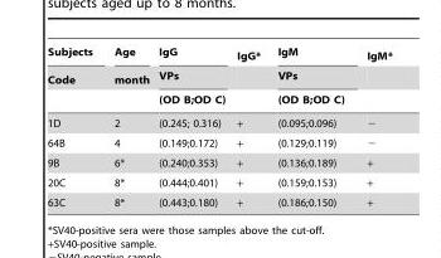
<table><thead><tr><td rowspan="3">Subjects Code</td><td rowspan="3">Age month</td><td rowspan="3">IgG VPs (OD B;OD C)</td><td rowspan="3">IgG*</td><td rowspan="3">IgM VPs (OD B;OD C)</td><td rowspan="3">IgM*</td></tr><tr></tr><tr></tr></thead><tbody><tr><td>1D</td><td>2</td><td>(0.245; 0.316)</td><td>+</td><td>(0.095;0.096)</td><td>−</td></tr><tr><td>64B</td><td>4</td><td>(0.149;0.172)</td><td>+</td><td>(0.129;0.119)</td><td>−</td></tr><tr><td>9B</td><td>6*</td><td>(0.240;0.353)</td><td>+</td><td>(0.136;0.189)</td><td>+</td></tr><tr><td>20C</td><td>8*</td><td>(0.444;0.401)</td><td>+</td><td>(0.159;0.153)</td><td>+</td></tr><tr><td>63C</td><td>8*</td><td>(0.443;0.180)</td><td>+</td><td>(0.186;0.150)</td><td>+</td></tr></tbody></table>